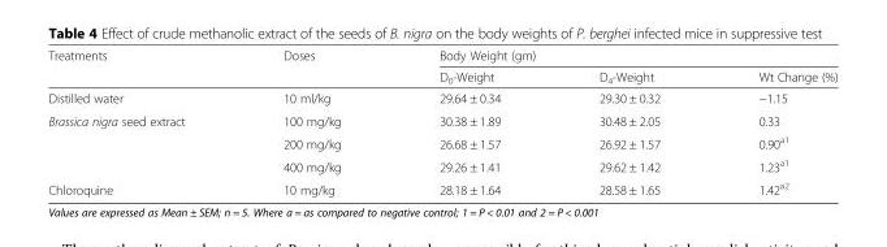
<table><thead><tr><td rowspan="2">Treatments</td><td rowspan="2">Doses</td><td colspan="3">Body Weight (gm)</td></tr><tr><td>D<sub>0</sub>-Weight</td><td>D<sub>4</sub>-Weight</td><td>Wt Change (%)</td></tr></thead><tbody><tr><td>Distilled water</td><td>10 ml/kg</td><td>29.64 ± 0.34</td><td>29.30 ± 0.32</td><td>−1.15</td></tr><tr><td rowspan="3">Brassica nigra seed extract</td><td>100 mg/kg</td><td>30.38 ± 1.89</td><td>30.48 ± 2.05</td><td>0.33</td></tr><tr><td>200 mg/kg</td><td>26.68 ± 1.57</td><td>26.92 ± 1.57</td><td>0.90<sup>a1</sup></td></tr><tr><td>400 mg/kg</td><td>29.26 ± 1.41</td><td>29.62 ± 1.42</td><td>1.23<sup>a1</sup></td></tr><tr><td>Chloroquine</td><td>10 mg/kg</td><td>28.18 ± 1.64</td><td>28.58 ± 1.65</td><td>1.42<sup>a2</sup></td></tr></tbody></table>